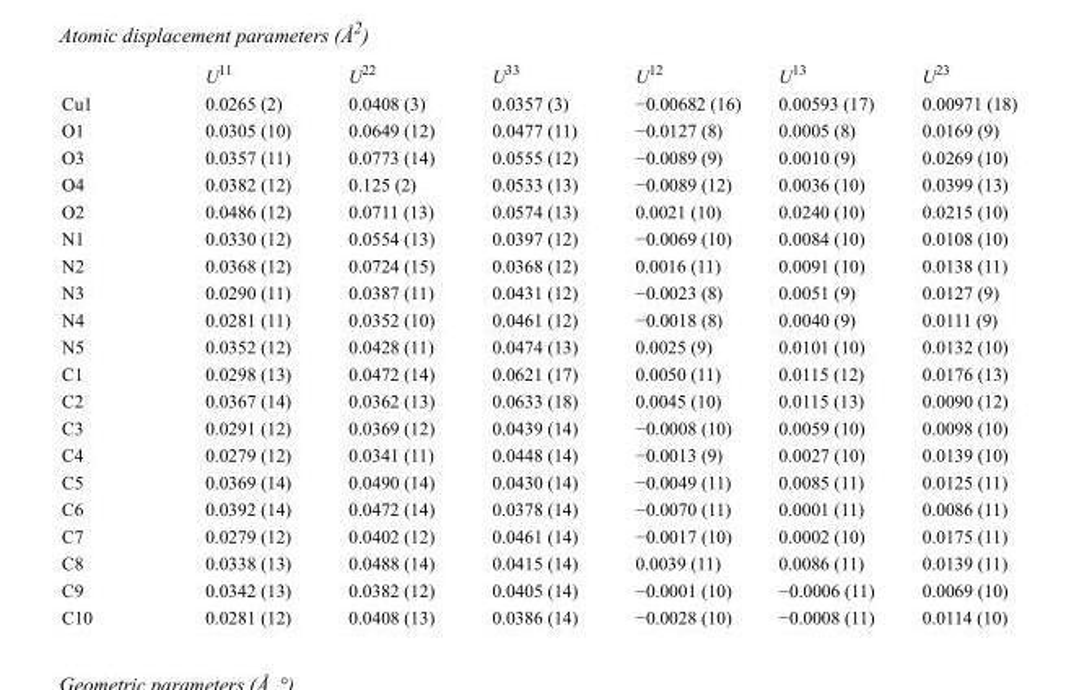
<table><thead><tr><td></td><td>U<sup>11</sup></td><td>U<sup>22</sup></td><td>U<sup>33</sup></td><td>U<sup>12</sup></td><td>U<sup>13</sup></td><td>U<sup>23</sup></td></tr></thead><tbody><tr><td>Cu1</td><td>0.0265 (2)</td><td>0.0408 (3)</td><td>0.0357 (3)</td><td>−0.00682 (16)</td><td>0.00593 (17)</td><td>0.00971 (18)</td></tr><tr><td>O1</td><td>0.0305 (10)</td><td>0.0649 (12)</td><td>0.0477 (11)</td><td>−0.0127 (8)</td><td>0.0005 (8)</td><td>0.0169 (9)</td></tr><tr><td>O3</td><td>0.0357 (11)</td><td>0.0773 (14)</td><td>0.0555 (12)</td><td>−0.0089 (9)</td><td>0.0010 (9)</td><td>0.0269 (10)</td></tr><tr><td>O4</td><td>0.0382 (12)</td><td>0.125 (2)</td><td>0.0533 (13)</td><td>−0.0089 (12)</td><td>0.0036 (10)</td><td>0.0399 (13)</td></tr><tr><td>O2</td><td>0.0486 (12)</td><td>0.0711 (13)</td><td>0.0574 (13)</td><td>0.0021 (10)</td><td>0.0240 (10)</td><td>0.0215 (10)</td></tr><tr><td>N1</td><td>0.0330 (12)</td><td>0.0554 (13)</td><td>0.0397 (12)</td><td>−0.0069 (10)</td><td>0.0084 (10)</td><td>0.0108 (10)</td></tr><tr><td>N2</td><td>0.0368 (12)</td><td>0.0724 (15)</td><td>0.0368 (12)</td><td>0.0016 (11)</td><td>0.0091 (10)</td><td>0.0138 (11)</td></tr><tr><td>N3</td><td>0.0290 (11)</td><td>0.0387 (11)</td><td>0.0431 (12)</td><td>−0.0023 (8)</td><td>0.0051 (9)</td><td>0.0127 (9)</td></tr><tr><td>N4</td><td>0.0281 (11)</td><td>0.0352 (10)</td><td>0.0461 (12)</td><td>−0.0018 (8)</td><td>0.0040 (9)</td><td>0.0111 (9)</td></tr><tr><td>N5</td><td>0.0352 (12)</td><td>0.0428 (11)</td><td>0.0474 (13)</td><td>0.0025 (9)</td><td>0.0101 (10)</td><td>0.0132 (10)</td></tr><tr><td>C1</td><td>0.0298 (13)</td><td>0.0472 (14)</td><td>0.0621 (17)</td><td>0.0050 (11)</td><td>0.0115 (12)</td><td>0.0176 (13)</td></tr><tr><td>C2</td><td>0.0367 (14)</td><td>0.0362 (13)</td><td>0.0633 (18)</td><td>0.0045 (10)</td><td>0.0115 (13)</td><td>0.0090 (12)</td></tr><tr><td>C3</td><td>0.0291 (12)</td><td>0.0369 (12)</td><td>0.0439 (14)</td><td>−0.0008 (10)</td><td>0.0059 (10)</td><td>0.0098 (10)</td></tr><tr><td>C4</td><td>0.0279 (12)</td><td>0.0341 (11)</td><td>0.0448 (14)</td><td>−0.0013 (9)</td><td>0.0027 (10)</td><td>0.0139 (10)</td></tr><tr><td>C5</td><td>0.0369 (14)</td><td>0.0490 (14)</td><td>0.0430 (14)</td><td>−0.0049 (11)</td><td>0.0085 (11)</td><td>0.0125 (11)</td></tr><tr><td>C6</td><td>0.0392 (14)</td><td>0.0472 (14)</td><td>0.0378 (14)</td><td>−0.0070 (11)</td><td>0.0001 (11)</td><td>0.0086 (11)</td></tr><tr><td>C7</td><td>0.0279 (12)</td><td>0.0402 (12)</td><td>0.0461 (14)</td><td>−0.0017 (10)</td><td>0.0002 (10)</td><td>0.0175 (11)</td></tr><tr><td>C8</td><td>0.0338 (13)</td><td>0.0488 (14)</td><td>0.0415 (14)</td><td>0.0039 (11)</td><td>0.0086 (11)</td><td>0.0139 (11)</td></tr><tr><td>C9</td><td>0.0342 (13)</td><td>0.0382 (12)</td><td>0.0405 (14)</td><td>−0.0001 (10)</td><td>−0.0006 (11)</td><td>0.0069 (10)</td></tr><tr><td>C10</td><td>0.0281 (12)</td><td>0.0408 (13)</td><td>0.0386 (14)</td><td>−0.0028 (10)</td><td>−0.0008 (11)</td><td>0.0114 (10)</td></tr></tbody></table>